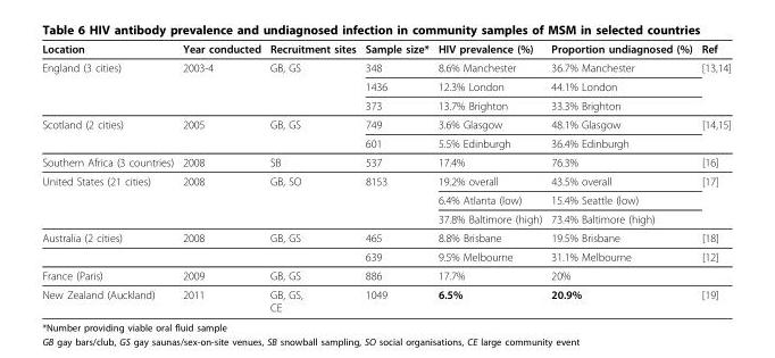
<table><thead><tr><td>Location</td><td>Year conducted</td><td>Recruitment sites</td><td>Sample size*</td><td>HIV prevalence (%)</td><td>Proportion undiagnosed (%)</td><td>Ref</td></tr></thead><tbody><tr><td rowspan="3">England (3 cities)</td><td>2003-4</td><td>GB, GS</td><td>348</td><td>8.6% Manchester</td><td>36.7% Manchester</td><td>[13,14]</td></tr><tr><td></td><td></td><td>1436</td><td>12.3% London</td><td>44.1% London</td><td></td></tr><tr><td></td><td></td><td>373</td><td>13.7% Brighton</td><td>33.3% Brighton</td><td></td></tr><tr><td rowspan="2">Scotland (2 cities)</td><td>2005</td><td>GB, GS</td><td>749</td><td>3.6% Glasgow</td><td>48.1% Glasgow</td><td>[14,15]</td></tr><tr><td></td><td></td><td>601</td><td>5.5% Edinburgh</td><td>36.4% Edinburgh</td><td></td></tr><tr><td>Southern Africa (3 countries)</td><td>2008</td><td>SB</td><td>537</td><td>17.4%</td><td>76.3%</td><td>[16]</td></tr><tr><td rowspan="3">United States (21 cities)</td><td>2008</td><td>GB, SO</td><td>8153</td><td>19.2% overall</td><td>43.5% overall</td><td>[17]</td></tr><tr><td></td><td></td><td></td><td>6.4% Atlanta (low)</td><td>15.4% Seattle (low)</td><td></td></tr><tr><td></td><td></td><td></td><td>37.8% Baltimore (high)</td><td>73.4% Baltimore (high)</td><td></td></tr><tr><td rowspan="2">Australia (2 cities)</td><td>2008</td><td>GB, GS</td><td>465</td><td>8.8% Brisbane</td><td>19.5% Brisbane</td><td>[18]</td></tr><tr><td></td><td></td><td>639</td><td>9.5% Melbourne</td><td>31.1% Melbourne</td><td>[12]</td></tr><tr><td>France (Paris)</td><td>2009</td><td>GB, GS</td><td>886</td><td>17.7%</td><td>20%</td><td></td></tr><tr><td>New Zealand (Auckland)</td><td>2011</td><td>GB, GS, CE</td><td>1049</td><td>6.5%</td><td>20.9%</td><td>[19]</td></tr></tbody></table>